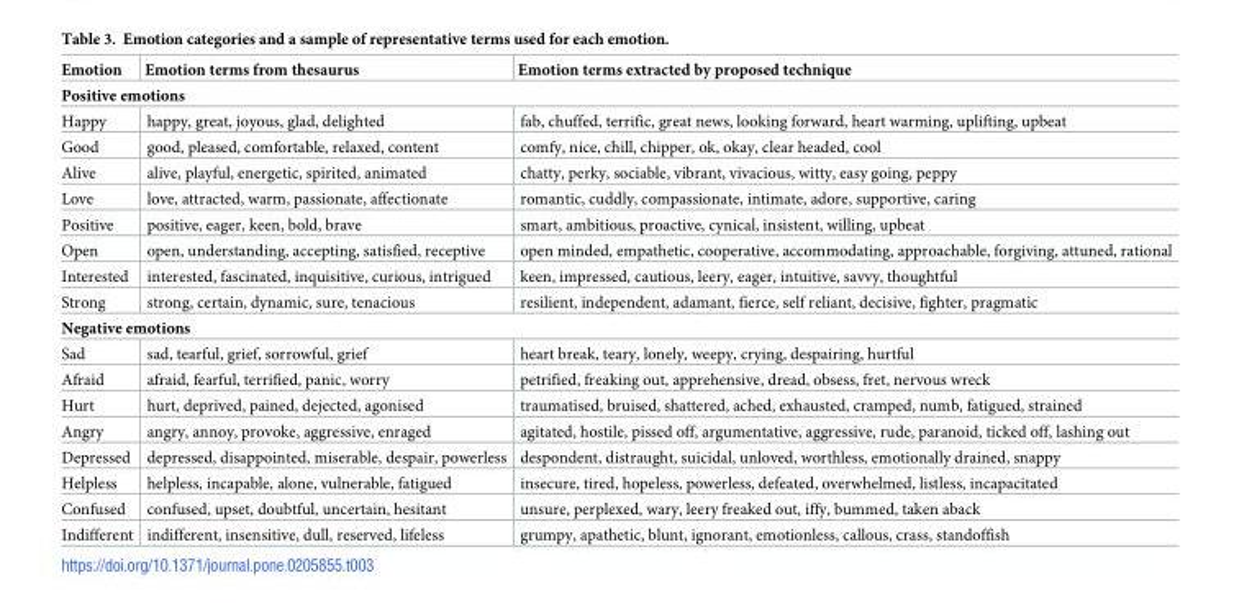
<table><thead><tr><td>Emotion</td><td>Emotion terms from thesaurus</td><td>Emotion terms extracted by proposed technique</td></tr></thead><tbody><tr><td colspan="3">Positive emotions</td></tr><tr><td>Happy</td><td>happy, great, joyous, glad, delighted</td><td>fab, chuffed, terrific, great news, looking forward, heart warming, uplifting, upbeat</td></tr><tr><td>Good</td><td>good, pleased, comfortable, relaxed, content</td><td>comfy, nice, chill, chipper, ok, okay, clear headed, cool</td></tr><tr><td>Alive</td><td>alive, playful, energetic, spirited, animated</td><td>chatty, perky, sociable, vibrant, vivacious, witty, easy going, peppy</td></tr><tr><td>Love</td><td>love, attracted, warm, passionate, affectionate</td><td>romantic, cuddly, compassionate, intimate, adore, supportive, caring</td></tr><tr><td>Positive</td><td>positive, eager, keen, bold, brave</td><td>smart, ambitious, proactive, cynical, insistent, willing, upbeat</td></tr><tr><td>Open</td><td>open, understanding, accepting, satisfied, receptive</td><td>open minded, empathetic, cooperative, accommodating, approachable, forgiving, attuned, rational</td></tr><tr><td>Interested</td><td>interested, fascinated, inquisitive, curious, intrigued</td><td>keen, impressed, cautious, leery, eager, intuitive, savvy, thoughtful</td></tr><tr><td>Strong</td><td>strong, certain, dynamic, sure, tenacious</td><td>resilient, independent, adamant, fierce, self reliant, decisive, fighter, pragmatic</td></tr><tr><td colspan="3">Negative emotions</td></tr><tr><td>Sad</td><td>sad, tearful, grief, sorrowful, grief</td><td>heart break, teary, lonely, weepy, crying, despairing, hurtful</td></tr><tr><td>Afraid</td><td>afraid, fearful, terrified, panic, worry</td><td>petrified, freaking out, apprehensive, dread, obsess, fret, nervous wreck</td></tr><tr><td>Hurt</td><td>hurt, deprived, pained, dejected, agonised</td><td>traumatised, bruised, shattered, ached, exhausted, cramped, numb, fatigued, strained</td></tr><tr><td>Angry</td><td>angry, annoy, provoke, aggressive, enraged</td><td>agitated, hostile, pissed off, argumentative, aggressive, rude, paranoid, ticked off, lashing out</td></tr><tr><td>Depressed</td><td>depressed, disappointed, miserable, despair, powerless</td><td>despondent, distraught, suicidal, unloved, worthless, emotionally drained, snappy</td></tr><tr><td>Helpless</td><td>helpless, incapable, alone, vulnerable, fatigued</td><td>insecure, tired, hopeless, powerless, defeated, overwhelmed, listless, incapacitated</td></tr><tr><td>Confused</td><td>confused, upset, doubtful, uncertain, hesitant</td><td>unsure, perplexed, wary, leery freaked out, iffy, bummed, taken aback</td></tr><tr><td>Indifferent</td><td>indifferent, insensitive, dull, reserved, lifeless</td><td>grumpy, apathetic, blunt, ignorant, emotionless, callous, crass, standoffish</td></tr></tbody></table>